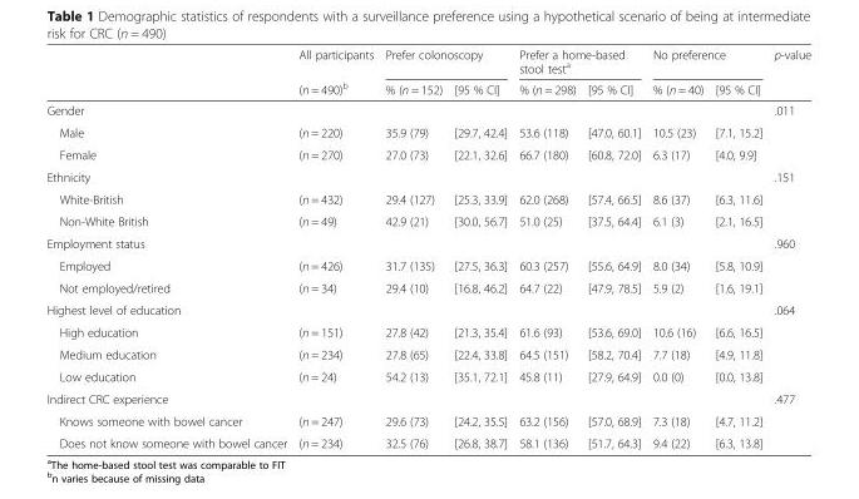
<table><thead><tr><td rowspan="2"></td><td rowspan="2">All participants (n = 490)<sup>b</sup></td><td colspan="2">Prefer colonoscopy</td><td colspan="2">Prefer a home-based stool test<sup>a</sup></td><td colspan="2">No preference</td><td rowspan="2">p-value</td></tr><tr><td>% (n = 152)</td><td>[95 % CI]</td><td>% (n = 298)</td><td>[95 % CI]</td><td>% (n = 40)</td><td>[95 % CI]</td></tr></thead><tbody><tr><td>Gender</td><td></td><td></td><td></td><td></td><td></td><td></td><td></td><td>.011</td></tr><tr><td>Male</td><td>(n = 220)</td><td>35.9 (79)</td><td>[29.7, 42.4]</td><td>53.6 (118)</td><td>[47.0, 60.1]</td><td>10.5 (23)</td><td>[7.1, 15.2]</td><td></td></tr><tr><td>Female</td><td>(n = 270)</td><td>27.0 (73)</td><td>[22.1, 32.6]</td><td>66.7 (180)</td><td>[60.8, 72.0]</td><td>6.3 (17)</td><td>[4.0, 9.9]</td><td></td></tr><tr><td>Ethnicity</td><td></td><td></td><td></td><td></td><td></td><td></td><td></td><td>.151</td></tr><tr><td>White-British</td><td>(n = 432)</td><td>29.4 (127)</td><td>[25.3, 33.9]</td><td>62.0 (268)</td><td>[57.4, 66.5]</td><td>8.6 (37)</td><td>[6.3, 11.6]</td><td></td></tr><tr><td>Non-White British</td><td>(n = 49)</td><td>42.9 (21)</td><td>[30.0, 56.7]</td><td>51.0 (25)</td><td>[37.5, 64.4]</td><td>6.1 (3)</td><td>[2.1, 16.5]</td><td></td></tr><tr><td>Employment status</td><td></td><td></td><td></td><td></td><td></td><td></td><td></td><td>.960</td></tr><tr><td>Employed</td><td>(n = 426)</td><td>31.7 (135)</td><td>[27.5, 36.3]</td><td>60.3 (257)</td><td>[55.6, 64.9]</td><td>8.0 (34)</td><td>[5.8, 10.9]</td><td></td></tr><tr><td>Not employed/retired</td><td>(n = 34)</td><td>29.4 (10)</td><td>[16.8, 46.2]</td><td>64.7 (22)</td><td>[47.9, 78.5]</td><td>5.9 (2)</td><td>[1.6, 19.1]</td><td></td></tr><tr><td>Highest level of education</td><td></td><td></td><td></td><td></td><td></td><td></td><td></td><td>.064</td></tr><tr><td>High education</td><td>(n = 151)</td><td>27.8 (42)</td><td>[21.3, 35.4]</td><td>61.6 (93)</td><td>[53.6, 69.0]</td><td>10.6 (16)</td><td>[6.6, 16.5]</td><td></td></tr><tr><td>Medium education</td><td>(n = 234)</td><td>27.8 (65)</td><td>[22.4, 33.8]</td><td>64.5 (151)</td><td>[58.2, 70.4]</td><td>7.7 (18)</td><td>[4.9, 11.8]</td><td></td></tr><tr><td>Low education</td><td>(n = 24)</td><td>54.2 (13)</td><td>[35.1, 72.1]</td><td>45.8 (11)</td><td>[27.9, 64.9]</td><td>0.0 (0)</td><td>[0.0, 13.8]</td><td></td></tr><tr><td>Indirect CRC experience</td><td></td><td></td><td></td><td></td><td></td><td></td><td></td><td>.477</td></tr><tr><td>Knows someone with bowel cancer</td><td>(n = 247)</td><td>29.6 (73)</td><td>[24.2, 35.5]</td><td>63.2 (156)</td><td>[57.0, 68.9]</td><td>7.3 (18)</td><td>[4.7, 11.2]</td><td></td></tr><tr><td>Does not know someone with bowel cancer</td><td>(n = 234)</td><td>32.5 (76)</td><td>[26.8, 38.7]</td><td>58.1 (136)</td><td>[51.7, 64.3]</td><td>9.4 (22)</td><td>[6.3, 13.8]</td><td></td></tr></tbody></table>